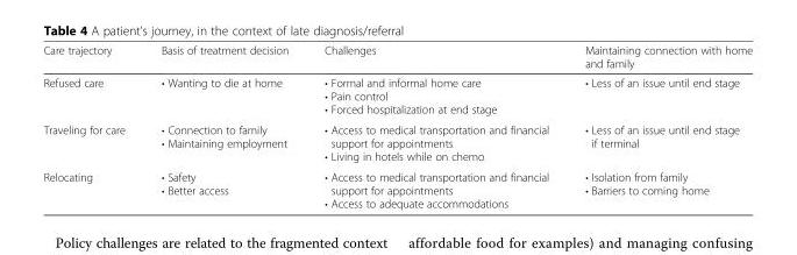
<table><thead><tr><td>Care trajectory</td><td>Basis of treatment decision</td><td>Challenges</td><td>Maintaining connection with home and family</td></tr></thead><tbody><tr><td>Refused care</td><td>• Wanting to die at home</td><td>• Formal and informal home care • Pain control • Forced hospitalization at end stage</td><td>• Less of an issue until end stage</td></tr><tr><td>Traveling for care</td><td>• Connection to family • Maintaining employment</td><td>• Access to medical transportation and financial support for appointments • Living in hotels while on chemo</td><td>• Less of an issue until end stage if terminal</td></tr><tr><td>Relocating</td><td>• Safety • Better access</td><td>• Access to medical transportation and financial support for appointments • Access to adequate accommodations</td><td>• Isolation from family • Barriers to coming home</td></tr></tbody></table>